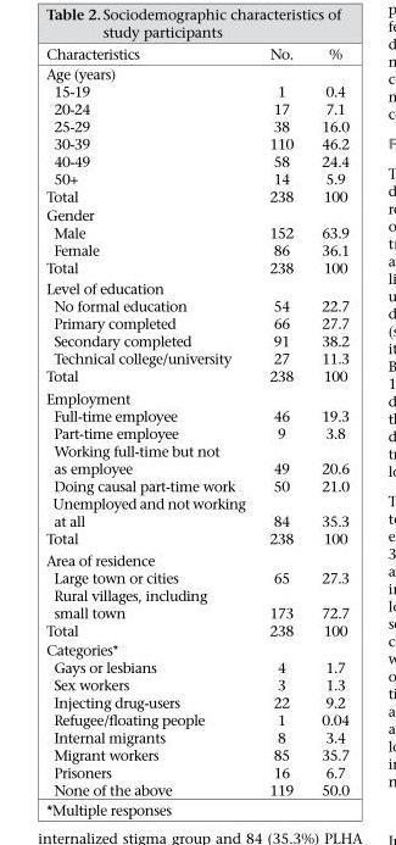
<table><thead><tr><td>Characteristics</td><td>No.</td><td>%</td></tr></thead><tbody><tr><td colspan="3">Age (years)</td></tr><tr><td>15-19</td><td>1</td><td>0.4</td></tr><tr><td>20-24</td><td>17</td><td>7.1</td></tr><tr><td>25-29</td><td>38</td><td>16.0</td></tr><tr><td>30-39</td><td>110</td><td>46.2</td></tr><tr><td>40-49</td><td>58</td><td>24.4</td></tr><tr><td>50+</td><td>14</td><td>5.9</td></tr><tr><td>Total</td><td>238</td><td>100</td></tr><tr><td colspan="3">Gender</td></tr><tr><td>Male</td><td>152</td><td>63.9</td></tr><tr><td>Female</td><td>86</td><td>36.1</td></tr><tr><td>Total</td><td>238</td><td>100</td></tr><tr><td colspan="3">Level of education</td></tr><tr><td>No formal education</td><td>54</td><td>22.7</td></tr><tr><td>Primary completed</td><td>66</td><td>27.7</td></tr><tr><td>Secondary completed</td><td>91</td><td>38.2</td></tr><tr><td>Technical college/university</td><td>27</td><td>11.3</td></tr><tr><td>Total</td><td>238</td><td>100</td></tr><tr><td colspan="3">Employment</td></tr><tr><td>Full-time employee</td><td>46</td><td>19.3</td></tr><tr><td>Part-time employee</td><td>9</td><td>3.8</td></tr><tr><td>Working full-time but not as employee</td><td>49</td><td>20.6</td></tr><tr><td>Doing causal part-time work</td><td>50</td><td>21.0</td></tr><tr><td>Unemployed and not working at all</td><td>84</td><td>35.3</td></tr><tr><td>Total</td><td>238</td><td>100</td></tr><tr><td colspan="3">Area of residence</td></tr><tr><td>Large town or cities</td><td>65</td><td>27.3</td></tr><tr><td>Rural villages, including small town</td><td>173</td><td>72.7</td></tr><tr><td>Total</td><td>238</td><td>100</td></tr><tr><td colspan="3">Categories*</td></tr><tr><td>Gays or lesbians</td><td>4</td><td>1.7</td></tr><tr><td>Sex workers</td><td>3</td><td>1.3</td></tr><tr><td>Injecting drug-users</td><td>22</td><td>9.2</td></tr><tr><td>Refugee/floating people</td><td>1</td><td>0.04</td></tr><tr><td>Internal migrants</td><td>8</td><td>3.4</td></tr><tr><td>Migrant workers</td><td>85</td><td>35.7</td></tr><tr><td>Prisoners</td><td>16</td><td>6.7</td></tr><tr><td>None of the above</td><td>119</td><td>50.0</td></tr></tbody></table>